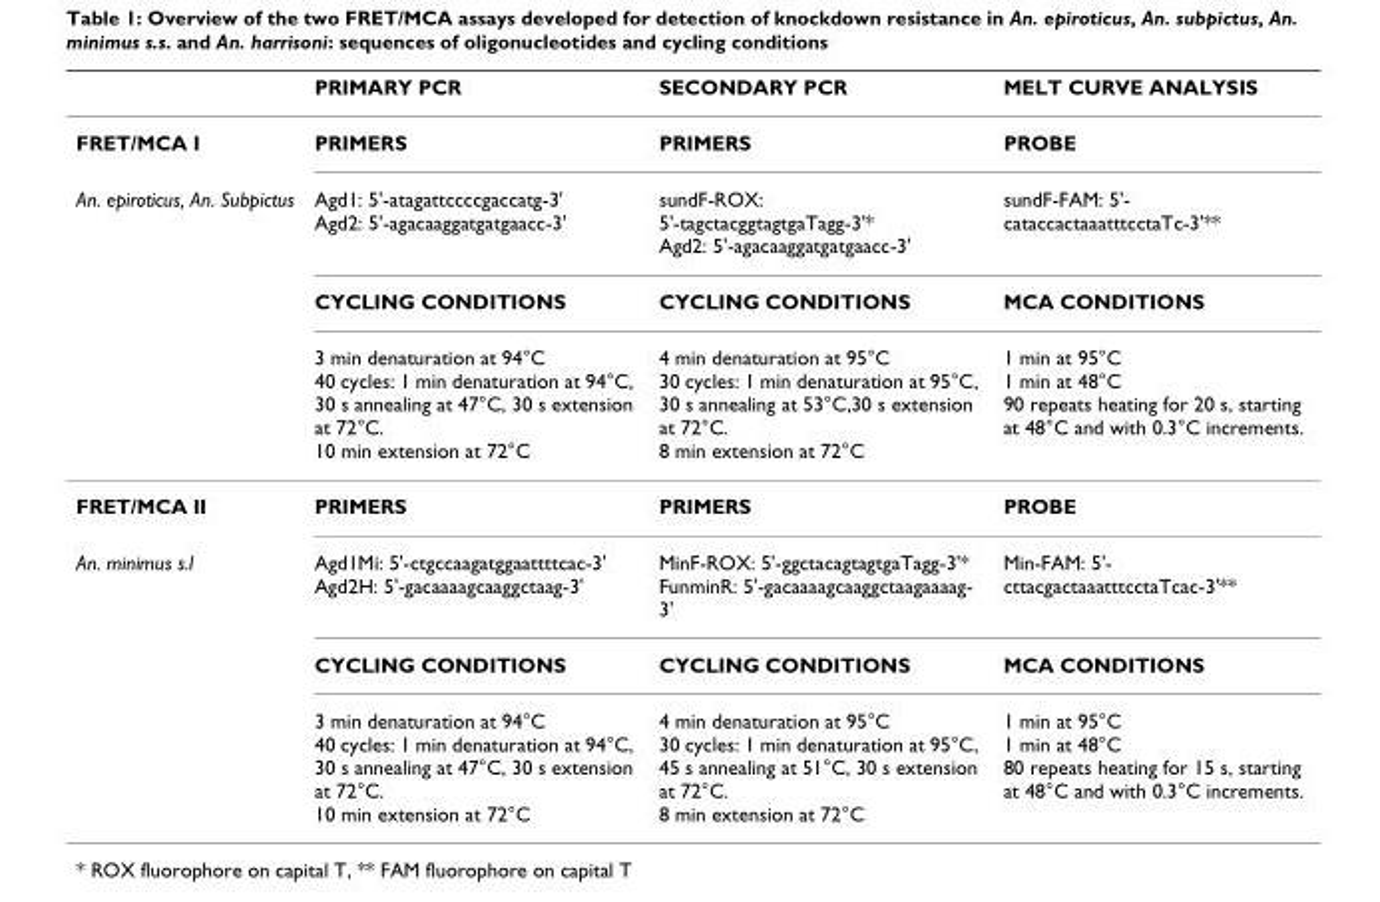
<table><thead><tr><td></td><td>PRIMARY PCR</td><td>SECONDARY PCR</td><td>MELT CURVE ANALYSIS</td></tr></thead><tbody><tr><td>FRET/MCA I</td><td>PRIMERS</td><td>PRIMERS</td><td>PROBE</td></tr><tr><td rowspan="3">An. epiroticus, An. Subpictus</td><td>Agd1: 5&#x27;-atagattccccgaccatg-3&#x27; Agd2: 5&#x27;-agacaaggatgatgaacc-3&#x27;</td><td>sundF-ROX: 5&#x27;-tagctacggtagtgaTagg-3&#x27;* Agd2: 5&#x27;-agacaaggatgatgaacc-3&#x27;</td><td>sundF-FAM: 5&#x27;- cataccactaaatttcctaTc-3&#x27;**</td></tr><tr><td>CYCLING CONDITIONS</td><td>CYCLING CONDITIONS</td><td>MCA CONDITIONS</td></tr><tr><td>3 min denaturation at 94°C 40 cycles: 1 min denaturation at 94°C, 30 s annealing at 47°C, 30 s extension at 72°C. 10 min extension at 72°C</td><td>4 min denaturation at 95°C 30 cycles: 1 min denaturation at 95°C, 30 s annealing at 53°C,30 s extension at 72°C. 8 min extension at 72°C</td><td>1 min at 95°C 1 min at 48°C 90 repeats heating for 20 s, starting at 48°C and with 0.3°C increments.</td></tr><tr><td>FRET/MCA II</td><td>PRIMERS</td><td>PRIMERS</td><td>PROBE</td></tr><tr><td rowspan="3">An. minimus s.l</td><td>Agd1Mi: 5&#x27;-ctgccaagatggaattttcac-3&#x27; Agd2H: 5&#x27;-gacaaaagcaaggctaag-3&#x27;</td><td>MinF-ROX: 5&#x27;-ggctacagtagtgaTagg-3&#x27;* FunminR: 5&#x27;-gacaaaagcaaggctaagaaaag- 3&#x27;</td><td>Min-FAM: 5&#x27;- cttacgactaaatttcctaTcac-3&#x27;**</td></tr><tr><td>CYCLING CONDITIONS</td><td>CYCLING CONDITIONS</td><td>MCA CONDITIONS</td></tr><tr><td>3 min denaturation at 94°C 40 cycles: 1 min denaturation at 94°C, 30 s annealing at 47°C, 30 s extension at 72°C. 10 min extension at 72°C</td><td>4 min denaturation at 95°C 30 cycles: 1 min denaturation at 95°C, 45 s annealing at 51°C, 30 s extension at 72°C. 8 min extension at 72°C</td><td>1 min at 95°C 1 min at 48°C 80 repeats heating for 15 s, starting at 48°C and with 0.3°C increments.</td></tr></tbody></table>